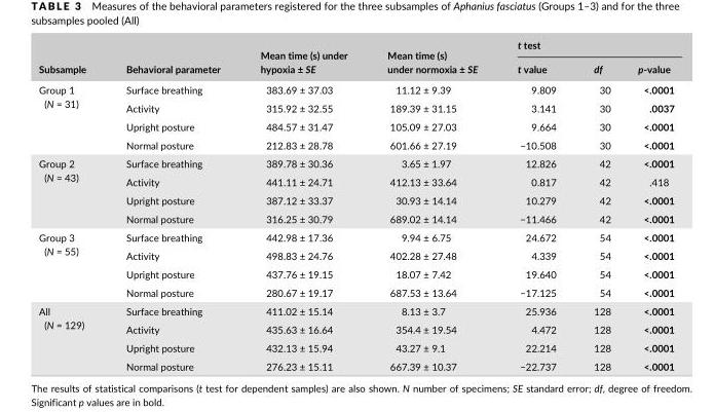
<table><thead><tr><td rowspan="2">Subsample</td><td rowspan="2">Behavioral parameter</td><td rowspan="2">Mean time (s) under hypoxia ± SE</td><td rowspan="2">Mean time (s) under normoxia ± SE</td><td colspan="3">t test</td></tr><tr><td>t value</td><td>df</td><td>p- value</td></tr></thead><tbody><tr><td rowspan="4">Group 1 (N = 31)</td><td>Surface breathing</td><td>383.69 ± 37.03</td><td>11.12 ± 9.39</td><td>9.809</td><td>30</td><td>&lt;.0001</td></tr><tr><td>Activity</td><td>315.92 ± 32.55</td><td>189.39 ± 31.15</td><td>3.141</td><td>30</td><td>.0037</td></tr><tr><td>Upright posture</td><td>484.57 ± 31.47</td><td>105.09 ± 27.03</td><td>9.664</td><td>30</td><td>&lt;.0001</td></tr><tr><td>Normal posture</td><td>212.83 ± 28.78</td><td>601.66 ± 27.19</td><td>−10.508</td><td>30</td><td>&lt;.0001</td></tr><tr><td rowspan="4">Group 2 (N = 43)</td><td>Surface breathing</td><td>389.78 ± 30.36</td><td>3.65 ± 1.97</td><td>12.826</td><td>42</td><td>&lt;.0001</td></tr><tr><td>Activity</td><td>441.11 ± 24.71</td><td>412.13 ± 33.64</td><td>0.817</td><td>42</td><td>.418</td></tr><tr><td>Upright posture</td><td>387.12 ± 33.37</td><td>30.93 ± 14.14</td><td>10.279</td><td>42</td><td>&lt;.0001</td></tr><tr><td>Normal posture</td><td>316.25 ± 30.79</td><td>689.02 ± 14.14</td><td>−11.466</td><td>42</td><td>&lt;.0001</td></tr><tr><td rowspan="4">Group 3 (N = 55)</td><td>Surface breathing</td><td>442.98 ± 17.36</td><td>9.94 ± 6.75</td><td>24.672</td><td>54</td><td>&lt;.0001</td></tr><tr><td>Activity</td><td>498.83 ± 24.76</td><td>402.28 ± 27.48</td><td>4.339</td><td>54</td><td>&lt;.0001</td></tr><tr><td>Upright posture</td><td>437.76 ± 19.15</td><td>18.07 ± 7.42</td><td>19.640</td><td>54</td><td>&lt;.0001</td></tr><tr><td>Normal posture</td><td>280.67 ± 19.17</td><td>687.53 ± 13.64</td><td>−17.125</td><td>54</td><td>&lt;.0001</td></tr><tr><td rowspan="4">All (N = 129)</td><td>Surface breathing</td><td>411.02 ± 15.14</td><td>8.13 ± 3.7</td><td>25.936</td><td>128</td><td>&lt;.0001</td></tr><tr><td>Activity</td><td>435.63 ± 16.64</td><td>354.4 ± 19.54</td><td>4.472</td><td>128</td><td>&lt;.0001</td></tr><tr><td>Upright posture</td><td>432.13 ± 15.94</td><td>43.27 ± 9.1</td><td>22.214</td><td>128</td><td>&lt;.0001</td></tr><tr><td>Normal posture</td><td>276.23 ± 15.11</td><td>667.39 ± 10.37</td><td>−22.737</td><td>128</td><td>&lt;.0001</td></tr></tbody></table>